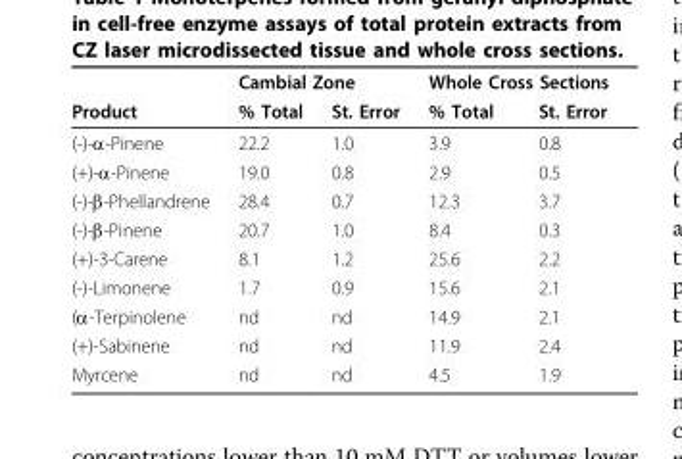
<table><thead><tr><td rowspan="2">Product</td><td colspan="2">Cambial Zone</td><td colspan="2">Whole Cross Sections</td></tr><tr><td>% Total</td><td>St. Error</td><td>% Total</td><td>St. Error</td></tr></thead><tbody><tr><td>(-)-a-Pinene</td><td>22.2</td><td>1.0</td><td>3.9</td><td>0.8</td></tr><tr><td>(+)-a-Pinene</td><td>19.0</td><td>0.8</td><td>2.9</td><td>0.5</td></tr><tr><td>(-)-b-Phellandrene</td><td>28.4</td><td>0.7</td><td>12.3</td><td>3.7</td></tr><tr><td>(-)-b-Pinene</td><td>20.7</td><td>1.0</td><td>8.4</td><td>0.3</td></tr><tr><td>(+)-3-Carene</td><td>8.1</td><td>1.2</td><td>25.6</td><td>2.2</td></tr><tr><td>(-)-Limonene</td><td>1.7</td><td>0.9</td><td>15.6</td><td>2.1</td></tr><tr><td>(α-Terpinolene</td><td>nd</td><td>nd</td><td>14.9</td><td>2.1</td></tr><tr><td>(+)-Sabinene</td><td>nd</td><td>nd</td><td>11.9</td><td>2.4</td></tr><tr><td>Myrcene</td><td>nd</td><td>nd</td><td>4.5</td><td>1.9</td></tr></tbody></table>